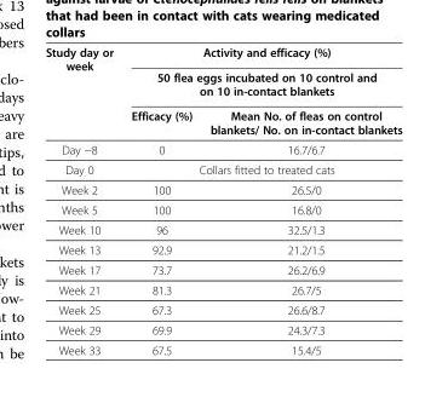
<table><thead><tr><td rowspan="3">Study day or week</td><td rowspan="2" colspan="2">Activity and efficacy (%) 50 flea eggs incubated on 10 control and on 10 in-contact blankets</td></tr><tr></tr><tr><td>Efficacy (%)</td><td>Mean No. of fleas on control blankets/ No. on in-contact blankets</td></tr></thead><tbody><tr><td>Day −8</td><td>0</td><td>16.7/6.7</td></tr><tr><td>Day 0</td><td colspan="2">Collars fitted to treated cats</td></tr><tr><td>Week 2</td><td>100</td><td>26.5/0</td></tr><tr><td>Week 5</td><td>100</td><td>16.8/0</td></tr><tr><td>Week 10</td><td>96</td><td>32.5/1.3</td></tr><tr><td>Week 13</td><td>92.9</td><td>21.2/1.5</td></tr><tr><td>Week 17</td><td>73.7</td><td>26.2/6.9</td></tr><tr><td>Week 21</td><td>81.3</td><td>26.7/5</td></tr><tr><td>Week 25</td><td>67.3</td><td>26.6/8.7</td></tr><tr><td>Week 29</td><td>69.9</td><td>24.3/7.3</td></tr><tr><td>Week 33</td><td>67.5</td><td>15.4/5</td></tr></tbody></table>